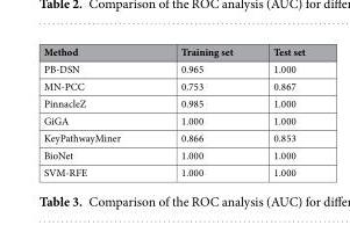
<table><thead><tr><td>Method</td><td>Training set</td><td>Test set</td></tr></thead><tbody><tr><td>PB-DSN</td><td>0.965</td><td>1.000</td></tr><tr><td>MN-PCC</td><td>0.753</td><td>0.867</td></tr><tr><td>PinnacleZ</td><td>0.985</td><td>1.000</td></tr><tr><td>GiGA</td><td>1.000</td><td>1.000</td></tr><tr><td>KeyPathwayMiner</td><td>0.866</td><td>0.853</td></tr><tr><td>BioNet</td><td>1.000</td><td>1.000</td></tr><tr><td>SVM-RFE</td><td>1.000</td><td>1.000</td></tr></tbody></table>